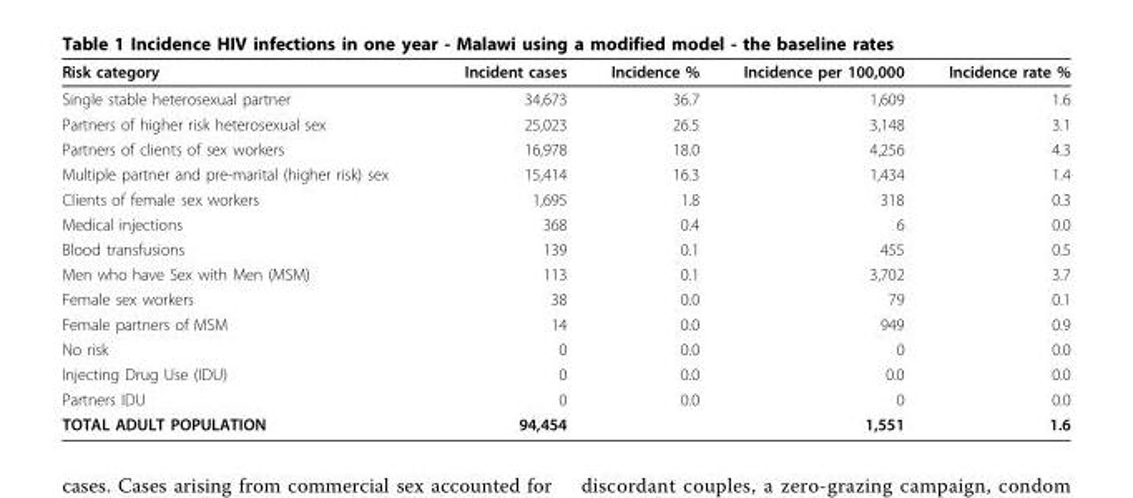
<table><thead><tr><td>Risk category</td><td>Incident cases</td><td>Incidence %</td><td>Incidence per 100,000</td><td>Incidence rate %</td></tr></thead><tbody><tr><td>Single stable heterosexual partner</td><td>34,673</td><td>36.7</td><td>1,609</td><td>1.6</td></tr><tr><td>Partners of higher risk heterosexual sex</td><td>25,023</td><td>26.5</td><td>3,148</td><td>3.1</td></tr><tr><td>Partners of clients of sex workers</td><td>16,978</td><td>18.0</td><td>4,256</td><td>4.3</td></tr><tr><td>Multiple partner and pre-marital (higher risk) sex</td><td>15,414</td><td>16.3</td><td>1,434</td><td>1.4</td></tr><tr><td>Clients of female sex workers</td><td>1,695</td><td>1.8</td><td>318</td><td>0.3</td></tr><tr><td>Medical injections</td><td>368</td><td>0.4</td><td>6</td><td>0.0</td></tr><tr><td>Blood transfusions</td><td>139</td><td>0.1</td><td>455</td><td>0.5</td></tr><tr><td>Men who have Sex with Men (MSM)</td><td>113</td><td>0.1</td><td>3,702</td><td>3.7</td></tr><tr><td>Female sex workers</td><td>38</td><td>0.0</td><td>79</td><td>0.1</td></tr><tr><td>Female partners of MSM</td><td>14</td><td>0.0</td><td>949</td><td>0.9</td></tr><tr><td>No risk</td><td>0</td><td>0.0</td><td>0</td><td>0.0</td></tr><tr><td>Injecting Drug Use (IDU)</td><td>0</td><td>0.0</td><td>0.0</td><td>0.0</td></tr><tr><td>Partners IDU</td><td>0</td><td>0.0</td><td>0</td><td>0.0</td></tr><tr><td>TOTAL ADULT POPULATION</td><td>94,454</td><td></td><td>1,551</td><td>1.6</td></tr></tbody></table>